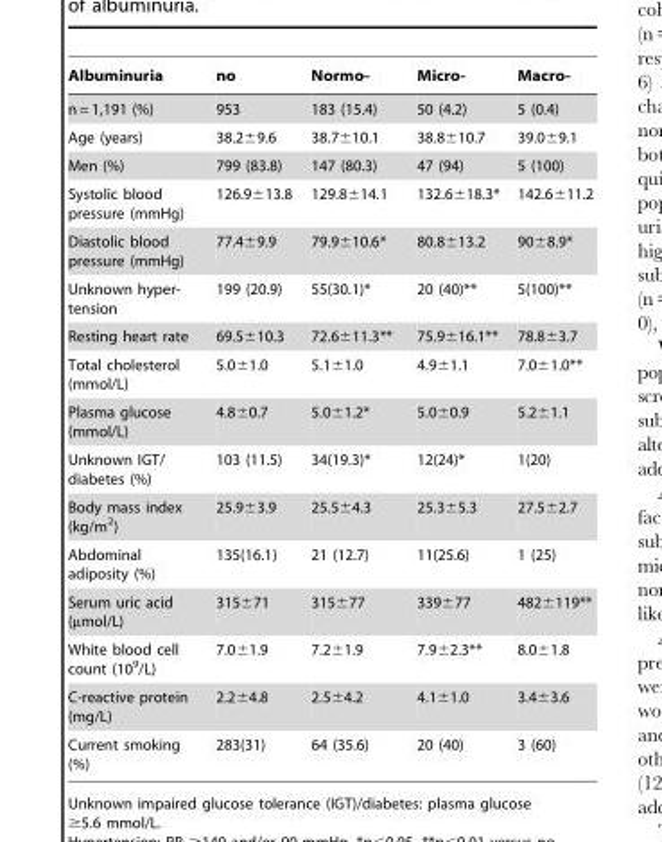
<table><thead><tr><td>Albuminuria</td><td>no</td><td>Normo-</td><td>Micro-</td><td>Macro-</td></tr></thead><tbody><tr><td>n = 1,191 (%)</td><td>953</td><td>183 (15.4)</td><td>50 (4.2)</td><td>5 (0.4)</td></tr><tr><td>Age (years)</td><td>38.2±9.6</td><td>38.7±10.1</td><td>38.8±10.7</td><td>39.0±9.1</td></tr><tr><td>Men (%)</td><td>799 (83.8)</td><td>147 (80.3)</td><td>47 (94)</td><td>5 (100)</td></tr><tr><td>Systolic blood pressure (mmHg)</td><td>126.9±13.8</td><td>129.8±14.1</td><td>132.6±18.3*</td><td>142.6±11.2</td></tr><tr><td>Diastolic blood pressure (mmHg)</td><td>77.4±9.9</td><td>79.9±10.6*</td><td>80.8±13.2</td><td>90±8.9*</td></tr><tr><td>Unknown hyper- tension</td><td>199 (20.9)</td><td>55(30.1)*</td><td>20 (40)**</td><td>5(100)**</td></tr><tr><td>Resting heart rate</td><td>69.5±10.3</td><td>72.6±11.3**</td><td>75.9±16.1**</td><td>78.8±3.7</td></tr><tr><td>Total cholesterol (mmol/L)</td><td>5.0±1.0</td><td>5.1±1.0</td><td>4.9±1.1</td><td>7.0±1.0**</td></tr><tr><td>Plasma glucose (mmol/L)</td><td>4.8±0.7</td><td>5.0±1.2*</td><td>5.0±0.9</td><td>5.2±1.1</td></tr><tr><td>Unknown IGT/ diabetes (%)</td><td>103 (11.5)</td><td>34(19.3)*</td><td>12(24)*</td><td>1(20)</td></tr><tr><td>Body mass index (kg/m<sup>2</sup>)</td><td>25.9±3.9</td><td>25.5±4.3</td><td>25.3±5.3</td><td>27.5±2.7</td></tr><tr><td>Abdominal adiposity (%)</td><td>135(16.1)</td><td>21 (12.7)</td><td>11(25.6)</td><td>1 (25)</td></tr><tr><td>Serum uric acid (µmol/L)</td><td>315±71</td><td>315±77</td><td>339±77</td><td>482±119**</td></tr><tr><td>White blood cell count (10<sup>9</sup>/L)</td><td>7.0±1.9</td><td>7.2±1.9</td><td>7.9±2.3**</td><td>8.0±1.8</td></tr><tr><td>C-reactive protein (mg/L)</td><td>2.2±4.8</td><td>2.5±4.2</td><td>4.1±1.0</td><td>3.4±3.6</td></tr><tr><td>Current smoking (%)</td><td>283(31)</td><td>64 (35.6)</td><td>20 (40)</td><td>3 (60)</td></tr></tbody></table>